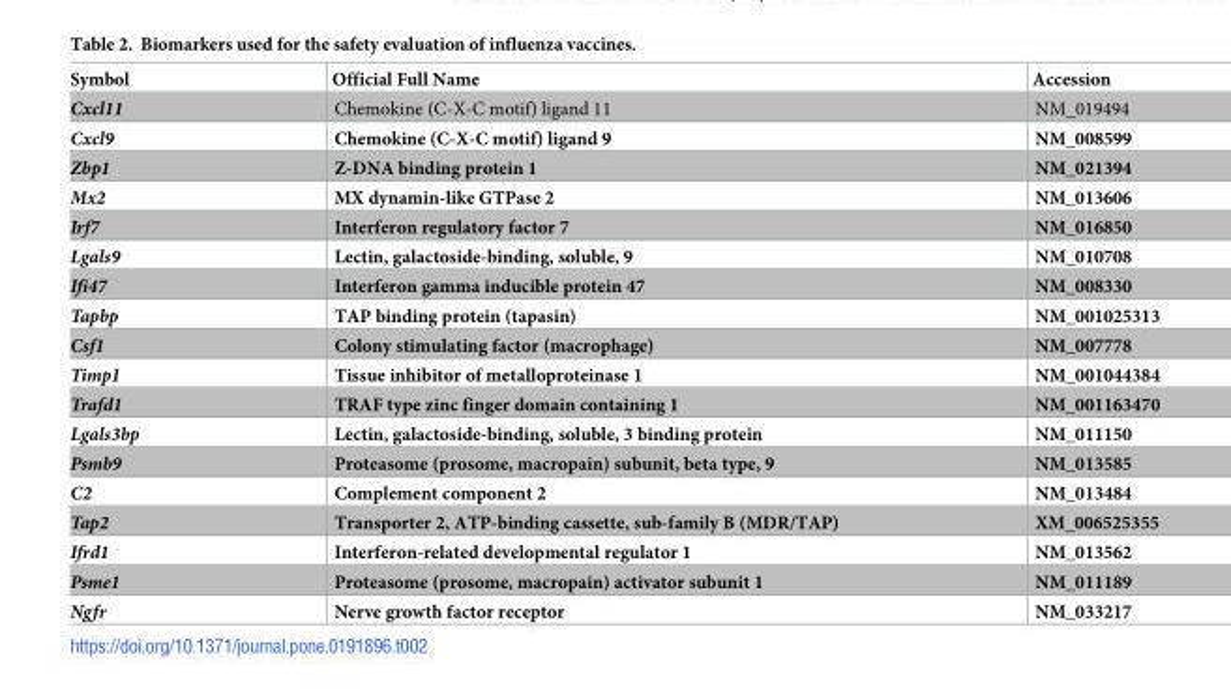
<table><thead><tr><td>Symbol</td><td>Official Full Name</td><td>Accession</td></tr></thead><tbody><tr><td>Cxcl11</td><td>Chemokine (C-X-C motif) ligand 11</td><td>NM_019494</td></tr><tr><td>Cxcl9</td><td>Chemokine (C-X-C motif) ligand 9</td><td>NM_008599</td></tr><tr><td>Zbp1</td><td>Z-DNA binding protein 1</td><td>NM_021394</td></tr><tr><td>Mx2</td><td>MX dynamin-like GTPase 2</td><td>NM_013606</td></tr><tr><td>Irf7</td><td>Interferon regulatory factor 7</td><td>NM_016850</td></tr><tr><td>Lgals9</td><td>Lectin, galactoside-binding, soluble, 9</td><td>NM_010708</td></tr><tr><td>Ifi47</td><td>Interferon gamma inducible protein 47</td><td>NM_008330</td></tr><tr><td>Tapbp</td><td>TAP binding protein (tapasin)</td><td>NM_001025313</td></tr><tr><td>Csf1</td><td>Colony stimulating factor (macrophage)</td><td>NM_007778</td></tr><tr><td>Timp1</td><td>Tissue inhibitor of metalloproteinase 1</td><td>NM_001044384</td></tr><tr><td>Trafd1</td><td>TRAF type zinc finger domain containing 1</td><td>NM_001163470</td></tr><tr><td>Lgals3bp</td><td>Lectin, galactoside-binding, soluble, 3 binding protein</td><td>NM_011150</td></tr><tr><td>Psmb9</td><td>Proteasome (prosome, macropain) subunit, beta type, 9</td><td>NM_013585</td></tr><tr><td>C2</td><td>Complement component 2</td><td>NM_013484</td></tr><tr><td>Tap2</td><td>Transporter 2, ATP-binding cassette, sub-family B (MDR/TAP)</td><td>XM_006525355</td></tr><tr><td>Ifrd1</td><td>Interferon-related developmental regulator 1</td><td>NM_013562</td></tr><tr><td>Psme1</td><td>Proteasome (prosome, macropain) activator subunit 1</td><td>NM_011189</td></tr><tr><td>Ngfr</td><td>Nerve growth factor receptor</td><td>NM_033217</td></tr></tbody></table>